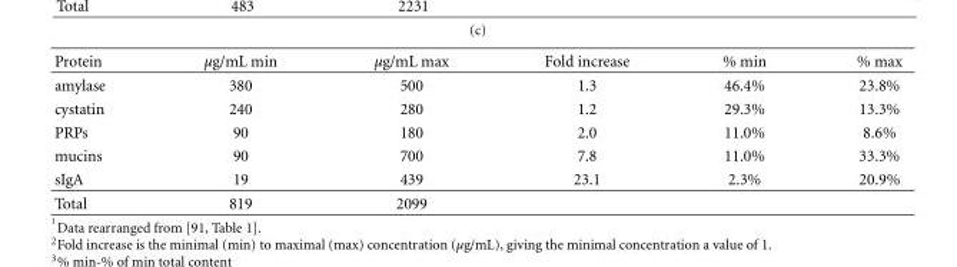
<table><thead><tr><td>Protein</td><td>μg/mL min</td><td>μg/mL max</td><td>Fold increase</td><td>% min</td><td>% max</td></tr></thead><tbody><tr><td>amylase</td><td>380</td><td>500</td><td>1.3</td><td>46.4%</td><td>23.8%</td></tr><tr><td>cystatin</td><td>240</td><td>280</td><td>1.2</td><td>29.3%</td><td>13.3%</td></tr><tr><td>PRPs</td><td>90</td><td>180</td><td>2.0</td><td>11.0%</td><td>8.6%</td></tr><tr><td>mucins</td><td>90</td><td>700</td><td>7.8</td><td>11.0%</td><td>33.3%</td></tr><tr><td>sIgA</td><td>19</td><td>439</td><td>23.1</td><td>2.3%</td><td>20.9%</td></tr><tr><td>Total</td><td>819</td><td>2099</td><td></td><td></td><td></td></tr></tbody></table>